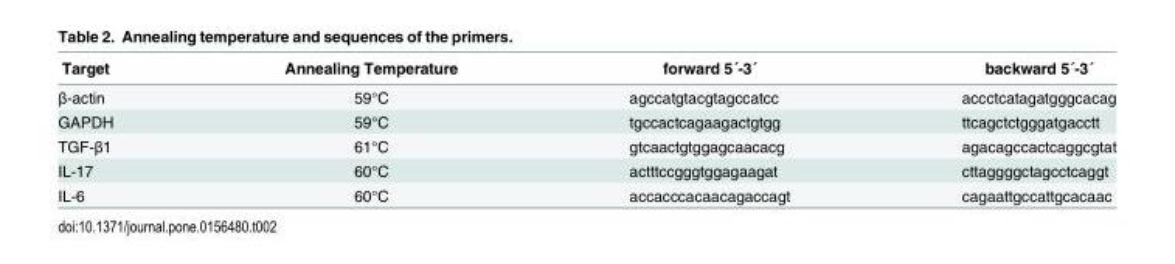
<table><thead><tr><td>Target</td><td>Annealing Temperature</td><td>forward 5´-3´</td><td>backward 5´-3´</td></tr></thead><tbody><tr><td>β-actin</td><td>59°C</td><td>agccatgtacgtagccatcc</td><td>accctcatagatgggcacag</td></tr><tr><td>GAPDH</td><td>59°C</td><td>tgccactcagaagactgtgg</td><td>ttcagctctgggatgacctt</td></tr><tr><td>TGF-β1</td><td>61°C</td><td>gtcaactgtggagcaacacg</td><td>agacagccactcaggcgtat</td></tr><tr><td>IL-17</td><td>60°C</td><td>actttccgggtggagaagat</td><td>cttaggggctagcctcaggt</td></tr><tr><td>IL-6</td><td>60°C</td><td>accacccacaacagaccagt</td><td>cagaattgccattgcacaac</td></tr></tbody></table>